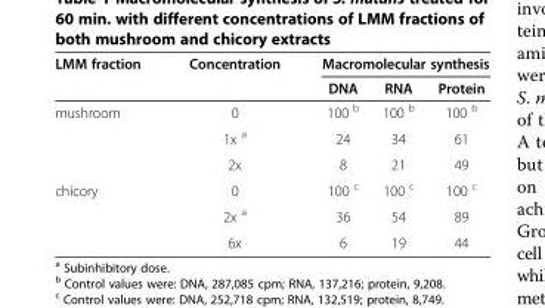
<table><thead><tr><td rowspan="2">LMM fraction</td><td rowspan="2">Concentration</td><td colspan="3">Macromolecular synthesis</td></tr><tr><td>DNA</td><td>RNA</td><td>Protein</td></tr></thead><tbody><tr><td rowspan="3">mushroom</td><td>0</td><td>100 <sup>b</sup></td><td>100 <sup>b</sup></td><td>100 <sup>b</sup></td></tr><tr><td>1x <sup>a</sup></td><td>24</td><td>34</td><td>61</td></tr><tr><td>2x</td><td>8</td><td>21</td><td>49</td></tr><tr><td rowspan="3">chicory</td><td>0</td><td>100 <sup>c</sup></td><td>100 <sup>c</sup></td><td>100 <sup>c</sup></td></tr><tr><td>2x <sup>a</sup></td><td>36</td><td>54</td><td>89</td></tr><tr><td>6x</td><td>6</td><td>19</td><td>44</td></tr></tbody></table>